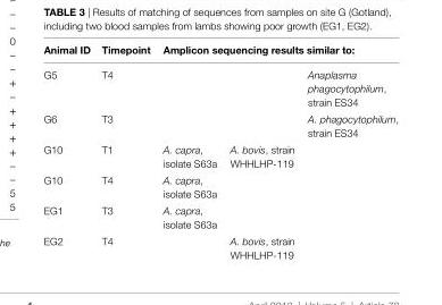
<table><thead><tr><td rowspan="2">animal iD G5</td><td rowspan="2">Timepoint T4</td><td colspan="3">amplicon sequencing results similar to:</td></tr><tr><td></td><td></td><td>Anaplasma phagocytophilum, strain ES34</td></tr></thead><tbody><tr><td>G6</td><td>T3</td><td></td><td></td><td>A. phagocytophilum, strain ES34</td></tr><tr><td>G10</td><td>T1</td><td>A. capra, isolate S63a</td><td>A. bovis, strain WHHLHP-119</td><td></td></tr><tr><td>G10</td><td>T4</td><td>A. capra, isolate S63a</td><td></td><td></td></tr><tr><td>EG1</td><td>T3</td><td>A. capra, isolate S63a</td><td></td><td></td></tr><tr><td>EG2</td><td>T4</td><td></td><td>A. bovis, strain WHHLHP-119</td><td></td></tr></tbody></table>